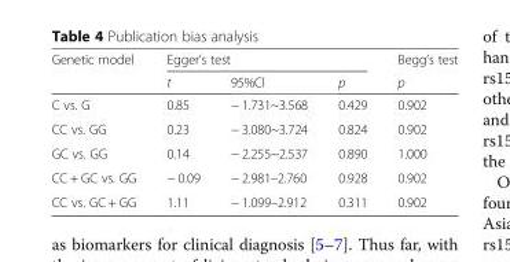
<table><thead><tr><td rowspan="2">Genetic model</td><td colspan="3">Egger’s test</td><td rowspan="2">Begg’s test p</td></tr><tr><td>t</td><td>95%Cl</td><td>p</td></tr></thead><tbody><tr><td>C vs. G</td><td>0.85</td><td>− 1.731~3.568</td><td>0.429</td><td>0.902</td></tr><tr><td>CC vs. GG</td><td>0.23</td><td>− 3.080~3.724</td><td>0.824</td><td>0.902</td></tr><tr><td>GC vs. GG</td><td>0.14</td><td>− 2.255~2.537</td><td>0.890</td><td>1.000</td></tr><tr><td>CC + GC vs. GG</td><td>− 0.09</td><td>− 2.981–2.760</td><td>0.928</td><td>0.902</td></tr><tr><td>CC vs. GC + GG</td><td>1.11</td><td>− 1.099–2.912</td><td>0.311</td><td>0.902</td></tr></tbody></table>